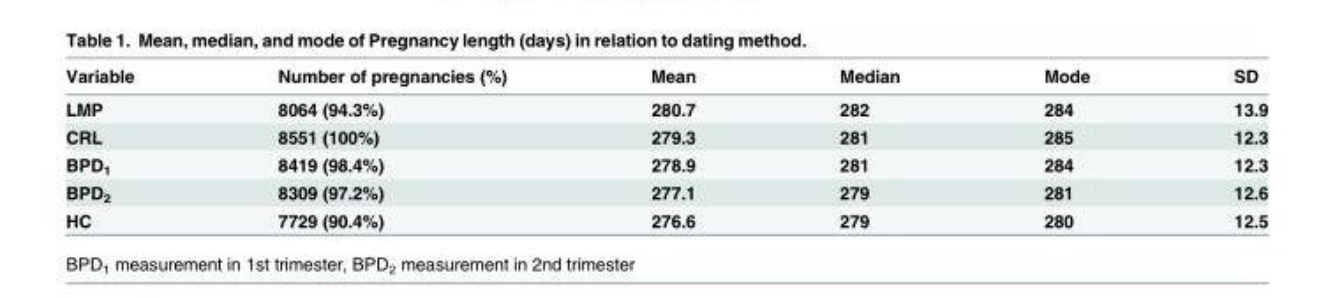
<table><thead><tr><td>Variable</td><td>Number of pregnancies (%)</td><td>Mean</td><td>Median</td><td>Mode</td><td>SD</td></tr></thead><tbody><tr><td>LMP</td><td>8064 (94.3%)</td><td>280.7</td><td>282</td><td>284</td><td>13.9</td></tr><tr><td>CRL</td><td>8551 (100%)</td><td>279.3</td><td>281</td><td>285</td><td>12.3</td></tr><tr><td>BPD<sub>1</sub></td><td>8419 (98.4%)</td><td>278.9</td><td>281</td><td>284</td><td>12.3</td></tr><tr><td>BPD<sub>2</sub></td><td>8309 (97.2%)</td><td>277.1</td><td>279</td><td>281</td><td>12.6</td></tr><tr><td>HC</td><td>7729 (90.4%)</td><td>276.6</td><td>279</td><td>280</td><td>12.5</td></tr></tbody></table>